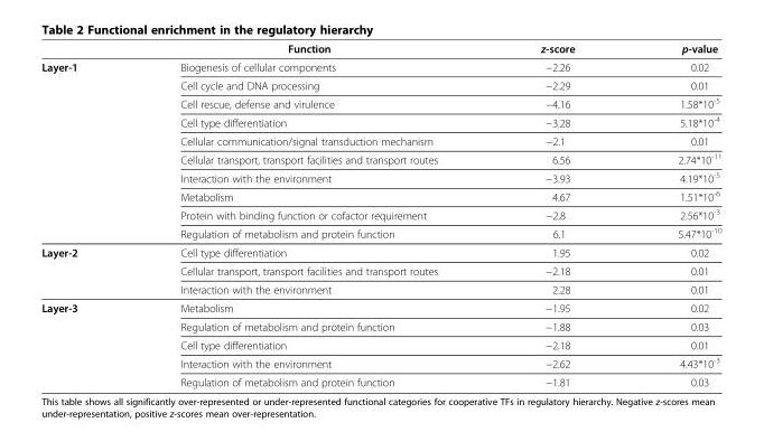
<table><thead><tr><td></td><td>Function</td><td>z-score</td><td>p-value</td></tr></thead><tbody><tr><td rowspan="10">Layer-1</td><td>Biogenesis of cellular components</td><td>−2.26</td><td>0.02</td></tr><tr><td>Cell cycle and DNA processing</td><td>−2.29</td><td>0.01</td></tr><tr><td>Cell rescue, defense and virulence</td><td>−4.16</td><td>1.58*10<sup>-5</sup></td></tr><tr><td>Cell type differentiation</td><td>−3.28</td><td>5.18*10<sup>-4</sup></td></tr><tr><td>Cellular communication/signal transduction mechanism</td><td>−2.1</td><td>0.01</td></tr><tr><td>Cellular transport, transport facilities and transport routes</td><td>6.56</td><td>2.74*10<sup>-11</sup></td></tr><tr><td>Interaction with the environment</td><td>−3.93</td><td>4.19*10<sup>-5</sup></td></tr><tr><td>Metabolism</td><td>4.67</td><td>1.51*10<sup>-6</sup></td></tr><tr><td>Protein with binding function or cofactor requirement</td><td>−2.8</td><td>2.56*10<sup>-3</sup></td></tr><tr><td>Regulation of metabolism and protein function</td><td>6.1</td><td>5.47*10<sup>-10</sup></td></tr><tr><td rowspan="3">Layer-2</td><td>Cell type differentiation</td><td>1.95</td><td>0.02</td></tr><tr><td>Cellular transport, transport facilities and transport routes</td><td>−2.18</td><td>0.01</td></tr><tr><td>Interaction with the environment</td><td>2.28</td><td>0.01</td></tr><tr><td rowspan="5">Layer-3</td><td>Metabolism</td><td>−1.95</td><td>0.02</td></tr><tr><td>Regulation of metabolism and protein function</td><td>−1.88</td><td>0.03</td></tr><tr><td>Cell type differentiation</td><td>−2.18</td><td>0.01</td></tr><tr><td>Interaction with the environment</td><td>−2.62</td><td>4.43*10<sup>-3</sup></td></tr><tr><td>Regulation of metabolism and protein function</td><td>−1.81</td><td>0.03</td></tr></tbody></table>